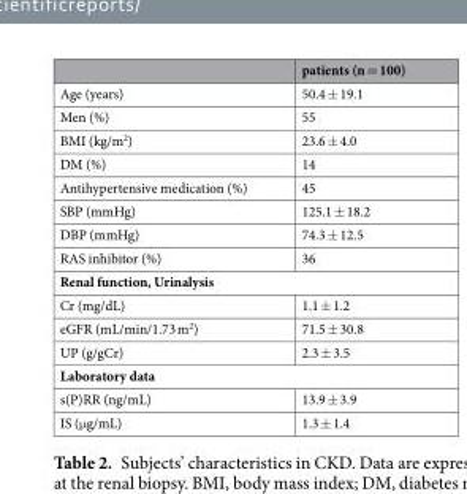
<table><thead><tr><td></td><td>patients (n = 100)</td></tr></thead><tbody><tr><td>Age (years)</td><td>50.4 ± 19.1</td></tr><tr><td>Men (%)</td><td>55</td></tr><tr><td>BMI (kg/m<sup>2</sup>)</td><td>23.6 ± 4.0</td></tr><tr><td>DM (%)</td><td>14</td></tr><tr><td>Antihypertensive medication (%)</td><td>45</td></tr><tr><td>SBP (mmHg)</td><td>125.1 ± 18.2</td></tr><tr><td>DBP (mmHg)</td><td>74.3 ± 12.5</td></tr><tr><td>RAS inhibitor (%)</td><td>36</td></tr><tr><td colspan="2">Renal function, Urinalysis</td></tr><tr><td>Cr (mg/dL)</td><td>1.1 ± 1.2</td></tr><tr><td>eGFR (mL/min/1.73 m<sup>2</sup>)</td><td>71.5 ± 30.8</td></tr><tr><td>UP (g/gCr)</td><td>2.3 ± 3.5</td></tr><tr><td colspan="2">Laboratory data</td></tr><tr><td>s(P)RR (ng/mL)</td><td>13.9 ± 3.9</td></tr><tr><td>IS (μg/mL)</td><td>1.3 ± 1.4</td></tr></tbody></table>